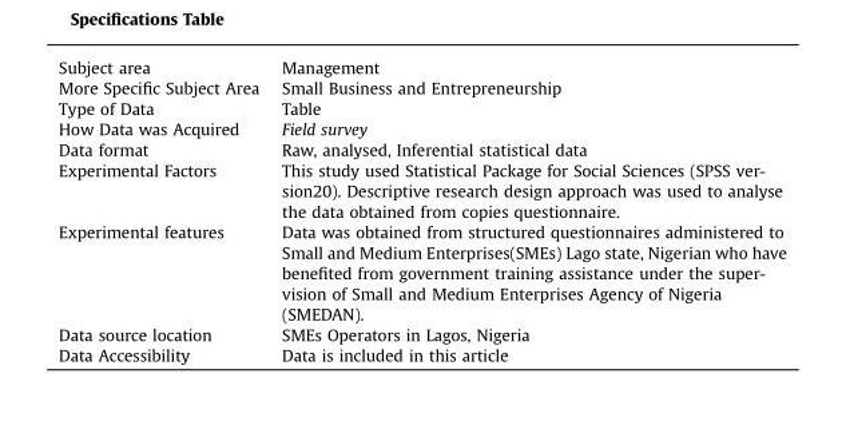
<table><tbody><tr><td>Subject area</td><td>Management</td></tr><tr><td>More Specific Subject Area</td><td>Small Business and Entrepreneurship</td></tr><tr><td>Type of Data</td><td>Table</td></tr><tr><td>How Data was Acquired</td><td>Field survey</td></tr><tr><td>Data format</td><td>Raw, analysed, Inferential statistical data</td></tr><tr><td>Experimental Factors</td><td>This study used Statistical Package for Social Sciences (SPSS ver- sion20). Descriptive research design approach was used to analyse the data obtained from copies questionnaire.</td></tr><tr><td>Experimental features</td><td>Data was obtained from structured questionnaires administered to Small and Medium Enterprises(SMEs) Lago state, Nigerian who have benefited from government training assistance under the super- vision of Small and Medium Enterprises Agency of Nigeria (SMEDAN).</td></tr><tr><td>Data source location</td><td>SMEs Operators in Lagos, Nigeria</td></tr><tr><td>Data Accessibility</td><td>Data is included in this article</td></tr></tbody></table>